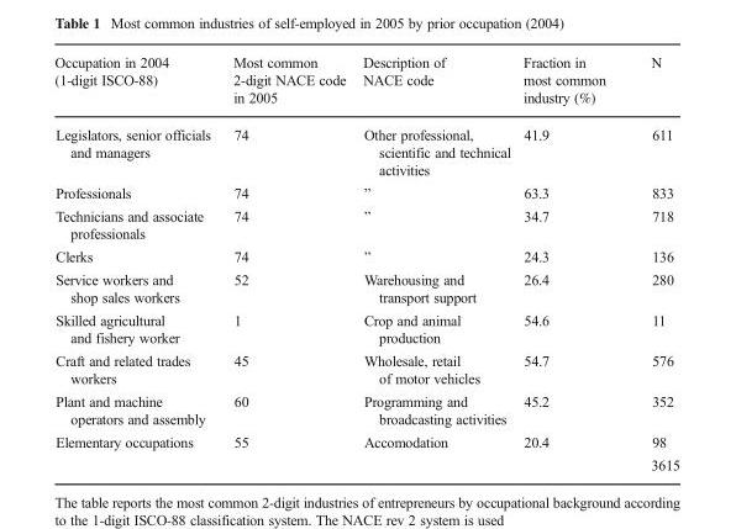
<table><thead><tr><td>Occupation in 2004 (1-digit ISCO-88)</td><td>Most common 2-digit NACE code in 2005</td><td>Description of NACE code</td><td>Fraction in most common industry (%)</td><td>N</td></tr></thead><tbody><tr><td>Legislators, senior officials and managers</td><td>74</td><td>Other professional, scientific and technical activities</td><td>41.9</td><td>611</td></tr><tr><td>Professionals</td><td>74</td><td>”</td><td>63.3</td><td>833</td></tr><tr><td>Technicians and associate professionals</td><td>74</td><td>”</td><td>34.7</td><td>718</td></tr><tr><td>Clerks</td><td>74</td><td>”</td><td>24.3</td><td>136</td></tr><tr><td>Service workers and shop sales workers</td><td>52</td><td>Warehousing and transport support</td><td>26.4</td><td>280</td></tr><tr><td>Skilled agricultural and fishery worker</td><td>1</td><td>Crop and animal production</td><td>54.6</td><td>11</td></tr><tr><td>Craft and related trades workers</td><td>45</td><td>Wholesale, retail of motor vehicles</td><td>54.7</td><td>576</td></tr><tr><td>Plant and machine operators and assembly</td><td>60</td><td>Programming and broadcasting activities</td><td>45.2</td><td>352</td></tr><tr><td>Elementary occupations</td><td>55</td><td>Accomodation</td><td>20.4</td><td>98</td></tr><tr><td colspan="4"></td><td>3615</td></tr></tbody></table>